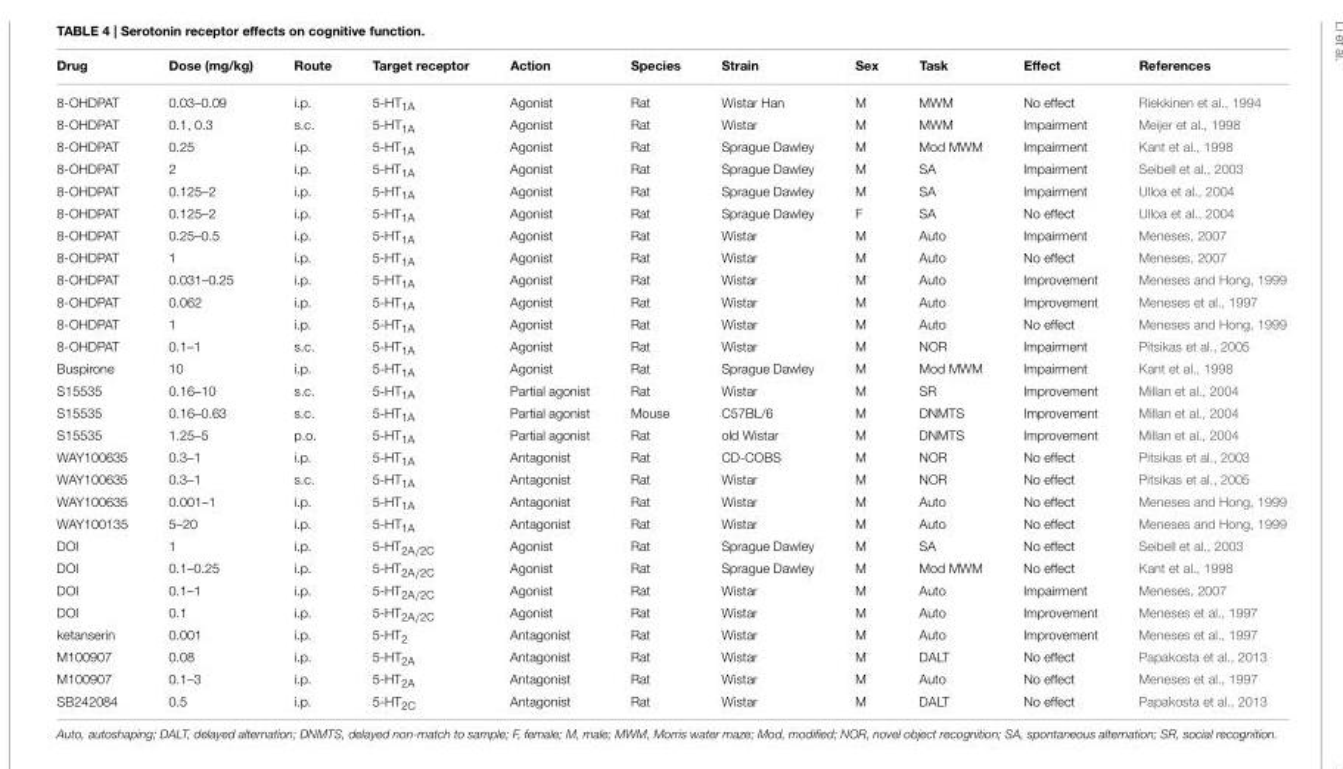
<table><thead><tr><td>Drug</td><td>Dose (mg/kg)</td><td>Route</td><td>Target receptor</td><td>Action</td><td>Species</td><td>Strain</td><td>Sex</td><td>Task</td><td>Effect</td><td>References</td></tr></thead><tbody><tr><td>8-OHDPAT</td><td>0.03–0.09</td><td>i.p.</td><td>5-HT<sub>1A</sub></td><td>Agonist</td><td>Rat</td><td>Wistar Han</td><td>M</td><td>MWM</td><td>No effect</td><td>Riekkinen et al., 1994</td></tr><tr><td>8-OHDPAT</td><td>0.1, 0.3</td><td>s.c.</td><td>5-HT<sub>1A</sub></td><td>Agonist</td><td>Rat</td><td>Wistar</td><td>M</td><td>MWM</td><td>Impairment</td><td>Meijer et al., 1998</td></tr><tr><td>8-OHDPAT</td><td>0.25</td><td>i.p.</td><td>5-HT<sub>1A</sub></td><td>Agonist</td><td>Rat</td><td>Sprague Dawley</td><td>M</td><td>Mod MWM</td><td>Impairment</td><td>Kant et al., 1998</td></tr><tr><td>8-OHDPAT</td><td>2</td><td>i.p.</td><td>5-HT<sub>1A</sub></td><td>Agonist</td><td>Rat</td><td>Sprague Dawley</td><td>M</td><td>SA</td><td>Impairment</td><td>Seibell et al., 2003</td></tr><tr><td>8-OHDPAT</td><td>0.125–2</td><td>i.p.</td><td>5-HT<sub>1A</sub></td><td>Agonist</td><td>Rat</td><td>Sprague Dawley</td><td>M</td><td>SA</td><td>Impairment</td><td>Ulloa et al., 2004</td></tr><tr><td>8-OHDPAT</td><td>0.125–2</td><td>i.p.</td><td>5-HT<sub>1A</sub></td><td>Agonist</td><td>Rat</td><td>Sprague Dawley</td><td>F</td><td>SA</td><td>No effect</td><td>Ulloa et al., 2004</td></tr><tr><td>8-OHDPAT</td><td>0.25–0.5</td><td>i.p.</td><td>5-HT<sub>1A</sub></td><td>Agonist</td><td>Rat</td><td>Wistar</td><td>M</td><td>Auto</td><td>Impairment</td><td>Meneses, 2007</td></tr><tr><td>8-OHDPAT</td><td>1</td><td>i.p.</td><td>5-HT<sub>1A</sub></td><td>Agonist</td><td>Rat</td><td>Wistar</td><td>M</td><td>Auto</td><td>No effect</td><td>Meneses, 2007</td></tr><tr><td>8-OHDPAT</td><td>0.031–0.25</td><td>i.p.</td><td>5-HT<sub>1A</sub></td><td>Agonist</td><td>Rat</td><td>Wistar</td><td>M</td><td>Auto</td><td>Improvement</td><td>Meneses and Hong, 1999</td></tr><tr><td>8-OHDPAT</td><td>0.062</td><td>i.p.</td><td>5-HT<sub>1A</sub></td><td>Agonist</td><td>Rat</td><td>Wistar</td><td>M</td><td>Auto</td><td>Improvement</td><td>Meneses et al., 1997</td></tr><tr><td>8-OHDPAT</td><td>1</td><td>i.p.</td><td>5-HT<sub>1A</sub></td><td>Agonist</td><td>Rat</td><td>Wistar</td><td>M</td><td>Auto</td><td>No effect</td><td>Meneses and Hong, 1999</td></tr><tr><td>8-OHDPAT</td><td>0.1–1</td><td>s.c.</td><td>5-HT<sub>1A</sub></td><td>Agonist</td><td>Rat</td><td>Wistar</td><td>M</td><td>NOR</td><td>Impairment</td><td>Pitsikas et al., 2005</td></tr><tr><td>Buspirone</td><td>10</td><td>i.p.</td><td>5-HT<sub>1A</sub></td><td>Agonist</td><td>Rat</td><td>Sprague Dawley</td><td>M</td><td>Mod MWM</td><td>Impairment</td><td>Kant et al., 1998</td></tr><tr><td>S15535</td><td>0.16–10</td><td>s.c.</td><td>5-HT<sub>1A</sub></td><td>Partial agonist</td><td>Rat</td><td>Wistar</td><td>M</td><td>SR</td><td>Improvement</td><td>Millan et al., 2004</td></tr><tr><td>S15535</td><td>0.16–0.63</td><td>s.c.</td><td>5-HT<sub>1A</sub></td><td>Partial agonist</td><td>Mouse</td><td>C57BL/6</td><td>M</td><td>DNMTS</td><td>Improvement</td><td>Millan et al., 2004</td></tr><tr><td>S15535</td><td>1.25–5</td><td>p.o.</td><td>5-HT<sub>1A</sub></td><td>Partial agonist</td><td>Rat</td><td>old Wistar</td><td>M</td><td>DNMTS</td><td>Improvement</td><td>Millan et al., 2004</td></tr><tr><td>WAY100635</td><td>0.3–1</td><td>i.p.</td><td>5-HT<sub>1A</sub></td><td>Antagonist</td><td>Rat</td><td>CD-COBS</td><td>M</td><td>NOR</td><td>No effect</td><td>Pitsikas et al., 2003</td></tr><tr><td>WAY100635</td><td>0.3–1</td><td>s.c.</td><td>5-HT<sub>1A</sub></td><td>Antagonist</td><td>Rat</td><td>Wistar</td><td>M</td><td>NOR</td><td>No effect</td><td>Pitsikas et al., 2005</td></tr><tr><td>WAY100635</td><td>0.001–1</td><td>i.p.</td><td>5-HT<sub>1A</sub></td><td>Antagonist</td><td>Rat</td><td>Wistar</td><td>M</td><td>Auto</td><td>No effect</td><td>Meneses and Hong, 1999</td></tr><tr><td>WAY100135</td><td>5–20</td><td>i.p.</td><td>5-HT<sub>1A</sub></td><td>Antagonist</td><td>Rat</td><td>Wistar</td><td>M</td><td>Auto</td><td>No effect</td><td>Meneses and Hong, 1999</td></tr><tr><td>DOI</td><td>1</td><td>i.p.</td><td>5-HT<sub>2A/2C</sub></td><td>Agonist</td><td>Rat</td><td>Sprague Dawley</td><td>M</td><td>SA</td><td>No effect</td><td>Seibell et al., 2003</td></tr><tr><td>DOI</td><td>0.1–0.25</td><td>i.p.</td><td>5-HT<sub>2A/2C</sub></td><td>Agonist</td><td>Rat</td><td>Sprague Dawley</td><td>M</td><td>Mod MWM</td><td>No effect</td><td>Kant et al., 1998</td></tr><tr><td>DOI</td><td>0.1–1</td><td>i.p.</td><td>5-HT<sub>2A/2C</sub></td><td>Agonist</td><td>Rat</td><td>Wistar</td><td>M</td><td>Auto</td><td>Impairment</td><td>Meneses, 2007</td></tr><tr><td>DOI</td><td>0.1</td><td>i.p.</td><td>5-HT<sub>2A/2C</sub></td><td>Agonist</td><td>Rat</td><td>Wistar</td><td>M</td><td>Auto</td><td>Improvement</td><td>Meneses et al., 1997</td></tr><tr><td>ketanserin</td><td>0.001</td><td>i.p.</td><td>5-HT<sub>2</sub></td><td>Antagonist</td><td>Rat</td><td>Wistar</td><td>M</td><td>Auto</td><td>Improvement</td><td>Meneses et al., 1997</td></tr><tr><td>M100907</td><td>0.08</td><td>i.p.</td><td>5-HT<sub>2A</sub></td><td>Antagonist</td><td>Rat</td><td>Wistar</td><td>M</td><td>DALT</td><td>No effect</td><td>Papakosta et al., 2013</td></tr><tr><td>M100907</td><td>0.1–3</td><td>i.p.</td><td>5-HT<sub>2A</sub></td><td>Antagonist</td><td>Rat</td><td>Wistar</td><td>M</td><td>Auto</td><td>No effect</td><td>Meneses et al., 1997</td></tr><tr><td>SB242084</td><td>0.5</td><td>i.p.</td><td>5-HT<sub>2C</sub></td><td>Antagonist</td><td>Rat</td><td>Wistar</td><td>M</td><td>DALT</td><td>No effect</td><td>Papakosta et al., 2013</td></tr></tbody></table>